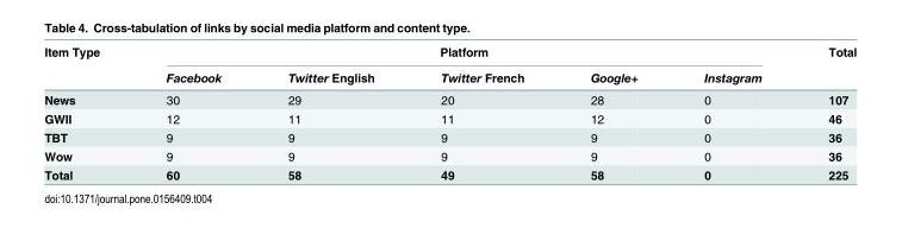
<table><thead><tr><td rowspan="2">Item Type</td><td colspan="5">Platform</td><td rowspan="2">Total</td></tr><tr><td>Facebook</td><td>Twitter English</td><td>Twitter French</td><td>Google+</td><td>Instagram</td></tr></thead><tbody><tr><td>News</td><td>30</td><td>29</td><td>20</td><td>28</td><td>0</td><td>107</td></tr><tr><td>GWII</td><td>12</td><td>11</td><td>11</td><td>12</td><td>0</td><td>46</td></tr><tr><td>TBT</td><td>9</td><td>9</td><td>9</td><td>9</td><td>0</td><td>36</td></tr><tr><td>Wow</td><td>9</td><td>9</td><td>9</td><td>9</td><td>0</td><td>36</td></tr><tr><td>Total</td><td>60</td><td>58</td><td>49</td><td>58</td><td>0</td><td>225</td></tr></tbody></table>